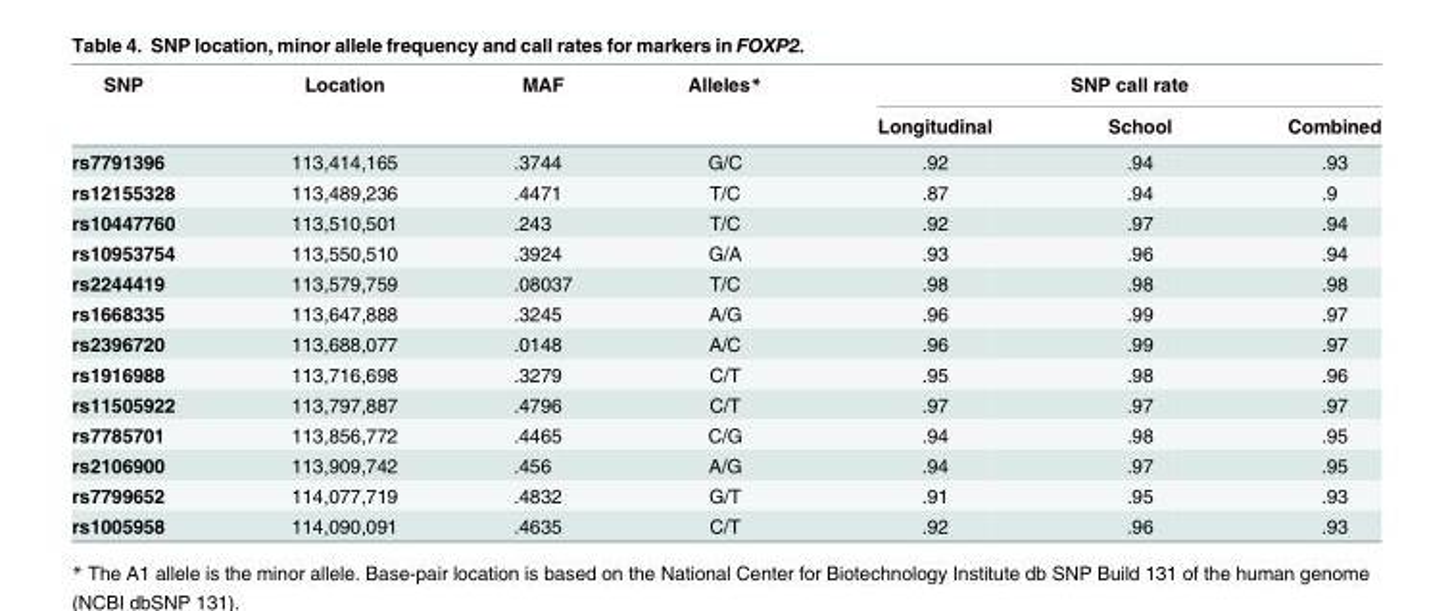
<table><thead><tr><td rowspan="2">SNP</td><td rowspan="2">Location</td><td rowspan="2">MAF</td><td rowspan="2">Alleles*</td><td colspan="3">SNP call rate</td></tr><tr><td>Longitudinal</td><td>School</td><td>Combined</td></tr></thead><tbody><tr><td>rs7791396</td><td>113,414,165</td><td>.3744</td><td>G/C</td><td>.92</td><td>.94</td><td>.93</td></tr><tr><td>rs12155328</td><td>113,489,236</td><td>.4471</td><td>T/C</td><td>.87</td><td>.94</td><td>.9</td></tr><tr><td>rs10447760</td><td>113,510,501</td><td>.243</td><td>T/C</td><td>.92</td><td>.97</td><td>.94</td></tr><tr><td>rs10953754</td><td>113,550,510</td><td>.3924</td><td>G/A</td><td>.93</td><td>.96</td><td>.94</td></tr><tr><td>rs2244419</td><td>113,579,759</td><td>.08037</td><td>T/C</td><td>.98</td><td>.98</td><td>.98</td></tr><tr><td>rs1668335</td><td>113,647,888</td><td>.3245</td><td>A/G</td><td>.96</td><td>.99</td><td>.97</td></tr><tr><td>rs2396720</td><td>113,688,077</td><td>.0148</td><td>A/C</td><td>.96</td><td>.99</td><td>.97</td></tr><tr><td>rs1916988</td><td>113,716,698</td><td>.3279</td><td>C/T</td><td>.95</td><td>.98</td><td>.96</td></tr><tr><td>rs11505922</td><td>113,797,887</td><td>.4796</td><td>C/T</td><td>.97</td><td>.97</td><td>.97</td></tr><tr><td>rs7785701</td><td>113,856,772</td><td>.4465</td><td>C/G</td><td>.94</td><td>.98</td><td>.95</td></tr><tr><td>rs2106900</td><td>113,909,742</td><td>.456</td><td>A/G</td><td>.94</td><td>.97</td><td>.95</td></tr><tr><td>rs7799652</td><td>114,077,719</td><td>.4832</td><td>G/T</td><td>.91</td><td>.95</td><td>.93</td></tr><tr><td>rs1005958</td><td>114,090,091</td><td>.4635</td><td>C/T</td><td>.92</td><td>.96</td><td>.93</td></tr></tbody></table>